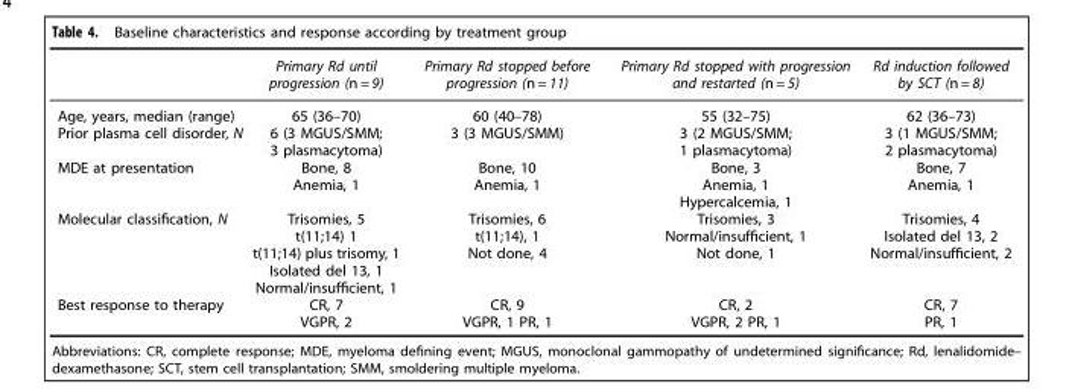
<table><thead><tr><td></td><td>Primary Rd until progression (n = 9)</td><td>Primary Rd stopped before progression (n = 11)</td><td>Primary Rd stopped with progression and restarted (n = 5)</td><td>Rd induction followed by SCT (n = 8)</td></tr></thead><tbody><tr><td>Age, years, median (range)</td><td>65 (36–70)</td><td>60 (40–78)</td><td>55 (32–75)</td><td>62 (36–73)</td></tr><tr><td>Prior plasma cell disorder, N</td><td>6 (3 MGUS/SMM; 3 plasmacytoma)</td><td>3 (3 MGUS/SMM)</td><td>3 (2 MGUS/SMM; 1 plasmacytoma)</td><td>3 (1 MGUS/SMM; 2 plasmacytoma)</td></tr><tr><td>MDE at presentation</td><td>Bone, 8 Anemia, 1</td><td>Bone, 10 Anemia, 1</td><td>Bone, 3 Anemia, 1 Hypercalcemia, 1</td><td>Bone, 7 Anemia, 1</td></tr><tr><td>Molecular classification, N</td><td>Trisomies, 5 t(11;14) 1 t(11;14) plus trisomy, 1 Isolated del 13, 1 Normal/insufficient, 1</td><td>Trisomies, 6 t(11;14), 1 Not done, 4</td><td>Trisomies, 3 Normal/insufficient, 1 Not done, 1</td><td>Trisomies, 4 Isolated del 13, 2 Normal/insufficient, 2</td></tr><tr><td>Best response to therapy</td><td>CR, 7 VGPR, 2</td><td>CR, 9 VGPR, 1 PR, 1</td><td>CR, 2 VGPR, 2 PR, 1</td><td>CR, 7 PR, 1</td></tr></tbody></table>